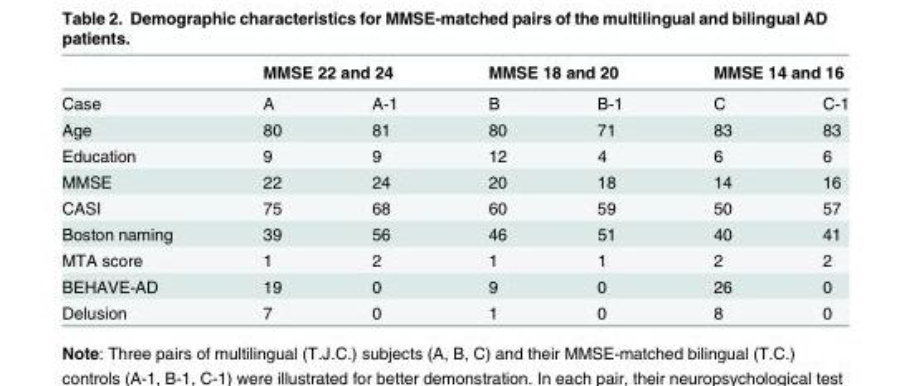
<table><thead><tr><td rowspan="2">Case</td><td colspan="2">MMSE 22 and 24</td><td colspan="2">MMSE 18 and 20</td><td colspan="2">MMSE 14 and 16</td></tr><tr><td>A</td><td>A-1</td><td>B</td><td>B-1</td><td>C</td><td>C-1</td></tr></thead><tbody><tr><td>Age</td><td>80</td><td>81</td><td>80</td><td>71</td><td>83</td><td>83</td></tr><tr><td>Education</td><td>9</td><td>9</td><td>12</td><td>4</td><td>6</td><td>6</td></tr><tr><td>MMSE</td><td>22</td><td>24</td><td>20</td><td>18</td><td>14</td><td>16</td></tr><tr><td>CASI</td><td>75</td><td>68</td><td>60</td><td>59</td><td>50</td><td>57</td></tr><tr><td>Boston naming</td><td>39</td><td>56</td><td>46</td><td>51</td><td>40</td><td>41</td></tr><tr><td>MTA score</td><td>1</td><td>2</td><td>1</td><td>1</td><td>2</td><td>2</td></tr><tr><td>BEHAVE-AD</td><td>19</td><td>0</td><td>9</td><td>0</td><td>26</td><td>0</td></tr><tr><td>Delusion</td><td>7</td><td>0</td><td>1</td><td>0</td><td>8</td><td>0</td></tr></tbody></table>